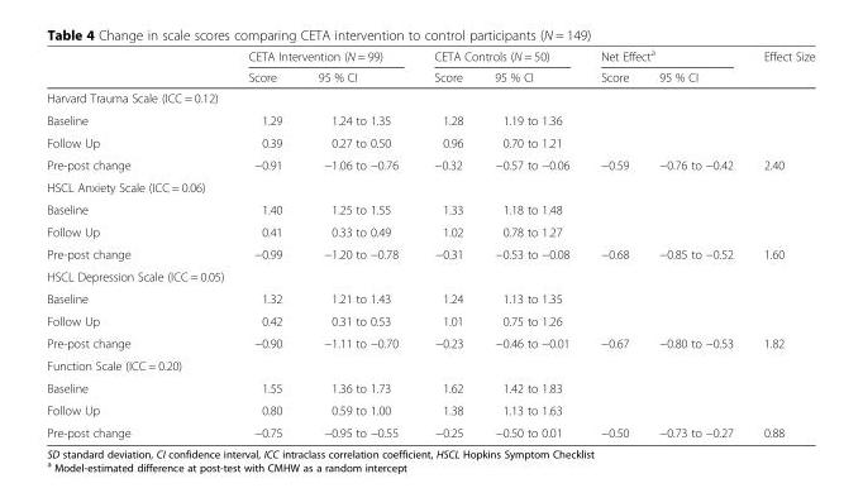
<table><thead><tr><td rowspan="2"></td><td colspan="2">CETA Intervention (N = 99)</td><td colspan="2">CETA Controls (N = 50)</td><td colspan="2">Net Effect<sup>a</sup></td><td rowspan="2">Effect Size</td></tr><tr><td>Score</td><td>95 % CI</td><td>Score</td><td>95 % CI</td><td>Score</td><td>95 % CI</td></tr></thead><tbody><tr><td colspan="8">Harvard Trauma Scale (ICC = 0.12)</td></tr><tr><td>Baseline</td><td>1.29</td><td>1.24 to 1.35</td><td>1.28</td><td>1.19 to 1.36</td><td></td><td></td><td></td></tr><tr><td>Follow Up</td><td>0.39</td><td>0.27 to 0.50</td><td>0.96</td><td>0.70 to 1.21</td><td></td><td></td><td></td></tr><tr><td>Pre-post change</td><td>−0.91</td><td>−1.06 to −0.76</td><td>−0.32</td><td>−0.57 to −0.06</td><td>−0.59</td><td>−0.76 to −0.42</td><td>2.40</td></tr><tr><td colspan="8">HSCL Anxiety Scale (ICC = 0.06)</td></tr><tr><td>Baseline</td><td>1.40</td><td>1.25 to 1.55</td><td>1.33</td><td>1.18 to 1.48</td><td></td><td></td><td></td></tr><tr><td>Follow Up</td><td>0.41</td><td>0.33 to 0.49</td><td>1.02</td><td>0.78 to 1.27</td><td></td><td></td><td></td></tr><tr><td>Pre-post change</td><td>−0.99</td><td>−1.20 to −0.78</td><td>−0.31</td><td>−0.53 to −0.08</td><td>−0.68</td><td>−0.85 to −0.52</td><td>1.60</td></tr><tr><td colspan="8">HSCL Depression Scale (ICC = 0.05)</td></tr><tr><td>Baseline</td><td>1.32</td><td>1.21 to 1.43</td><td>1.24</td><td>1.13 to 1.35</td><td></td><td></td><td></td></tr><tr><td>Follow Up</td><td>0.42</td><td>0.31 to 0.53</td><td>1.01</td><td>0.75 to 1.26</td><td></td><td></td><td></td></tr><tr><td>Pre-post change</td><td>−0.90</td><td>−1.11 to −0.70</td><td>−0.23</td><td>−0.46 to −0.01</td><td>−0.67</td><td>−0.80 to −0.53</td><td>1.82</td></tr><tr><td colspan="8">Function Scale (ICC = 0.20)</td></tr><tr><td>Baseline</td><td>1.55</td><td>1.36 to 1.73</td><td>1.62</td><td>1.42 to 1.83</td><td></td><td></td><td></td></tr><tr><td>Follow Up</td><td>0.80</td><td>0.59 to 1.00</td><td>1.38</td><td>1.13 to 1.63</td><td></td><td></td><td></td></tr><tr><td>Pre-post change</td><td>−0.75</td><td>−0.95 to −0.55</td><td>−0.25</td><td>−0.50 to 0.01</td><td>−0.50</td><td>−0.73 to −0.27</td><td>0.88</td></tr></tbody></table>